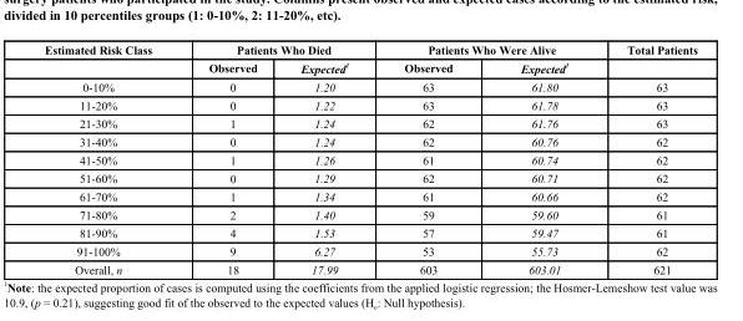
<table><thead><tr><td rowspan="2">Estimated Risk Class</td><td colspan="2">Patients Who Died</td><td colspan="2">Patients Who Were Alive</td><td rowspan="2">Total Patients</td></tr><tr><td>Observed</td><td>Expected <sup>1</sup></td><td>Observed</td><td>Expected <sup>1</sup></td></tr></thead><tbody><tr><td>0-10%</td><td>0</td><td>1.20</td><td>63</td><td>61.80</td><td>63</td></tr><tr><td>11-20%</td><td>0</td><td>1.22</td><td>63</td><td>61.78</td><td>63</td></tr><tr><td>21-30%</td><td>1</td><td>1.24</td><td>62</td><td>61.76</td><td>63</td></tr><tr><td>31-40%</td><td>0</td><td>1.24</td><td>62</td><td>60.76</td><td>62</td></tr><tr><td>41-50%</td><td>1</td><td>1.26</td><td>61</td><td>60.74</td><td>62</td></tr><tr><td>51-60%</td><td>0</td><td>1.29</td><td>62</td><td>60.71</td><td>62</td></tr><tr><td>61-70%</td><td>1</td><td>1.34</td><td>61</td><td>60.66</td><td>62</td></tr><tr><td>71-80%</td><td>2</td><td>1.40</td><td>59</td><td>59.60</td><td>61</td></tr><tr><td>81-90%</td><td>4</td><td>1.53</td><td>57</td><td>59.47</td><td>61</td></tr><tr><td>91-100%</td><td>9</td><td>6.27</td><td>53</td><td>55.73</td><td>62</td></tr><tr><td>Overall, n</td><td>18</td><td>17.99</td><td>603</td><td>603.01</td><td>621</td></tr></tbody></table>